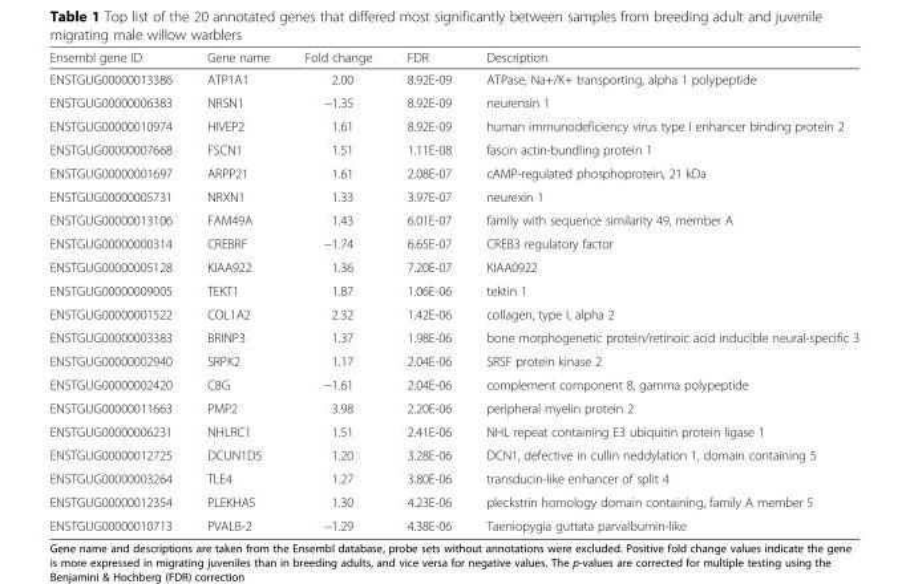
<table><thead><tr><td>Ensembl gene ID</td><td>Gene name</td><td>Fold change</td><td>FDR</td><td>Description</td></tr></thead><tbody><tr><td>ENSTGUG00000013386</td><td>ATP1A1</td><td>2.00</td><td>8.92E-09</td><td>ATPase, Na+/K+ transporting, alpha 1 polypeptide</td></tr><tr><td>ENSTGUG00000006383</td><td>NRSN1</td><td>−1.35</td><td>8.92E-09</td><td>neurensin 1</td></tr><tr><td>ENSTGUG00000010974</td><td>HIVEP2</td><td>1.61</td><td>8.92E-09</td><td>human immunodeficiency virus type I enhancer binding protein 2</td></tr><tr><td>ENSTGUG00000007668</td><td>FSCN1</td><td>1.51</td><td>1.11E-08</td><td>fascin actin-bundling protein 1</td></tr><tr><td>ENSTGUG00000001697</td><td>ARPP21</td><td>1.61</td><td>2.08E-07</td><td>cAMP-regulated phosphoprotein, 21 kDa</td></tr><tr><td>ENSTGUG00000005731</td><td>NRXN1</td><td>1.33</td><td>3.97E-07</td><td>neurexin 1</td></tr><tr><td>ENSTGUG00000013106</td><td>FAM49A</td><td>1.43</td><td>6.01E-07</td><td>family with sequence similarity 49, member A</td></tr><tr><td>ENSTGUG00000000314</td><td>CREBRF</td><td>−1.74</td><td>6.65E-07</td><td>CREB3 regulatory factor</td></tr><tr><td>ENSTGUG00000005128</td><td>KIAA922</td><td>1.36</td><td>7.20E-07</td><td>KIAA0922</td></tr><tr><td>ENSTGUG00000009005</td><td>TEKT1</td><td>1.87</td><td>1.06E-06</td><td>tektin 1</td></tr><tr><td>ENSTGUG00000001522</td><td>COL1A2</td><td>2.32</td><td>1.42E-06</td><td>collagen, type I, alpha 2</td></tr><tr><td>ENSTGUG00000003383</td><td>BRINP3</td><td>1.37</td><td>1.98E-06</td><td>bone morphogenetic protein/retinoic acid inducible neural-specific 3</td></tr><tr><td>ENSTGUG00000002940</td><td>SRPK2</td><td>1.17</td><td>2.04E-06</td><td>SRSF protein kinase 2</td></tr><tr><td>ENSTGUG00000002420</td><td>C8G</td><td>−1.61</td><td>2.04E-06</td><td>complement component 8, gamma polypeptide</td></tr><tr><td>ENSTGUG00000011663</td><td>PMP2</td><td>3.98</td><td>2.20E-06</td><td>peripheral myelin protein 2</td></tr><tr><td>ENSTGUG00000006231</td><td>NHLRC1</td><td>1.51</td><td>2.41E-06</td><td>NHL repeat containing E3 ubiquitin protein ligase 1</td></tr><tr><td>ENSTGUG00000012725</td><td>DCUN1D5</td><td>1.20</td><td>3.28E-06</td><td>DCN1, defective in cullin neddylation 1, domain containing 5</td></tr><tr><td>ENSTGUG00000003264</td><td>TLE4</td><td>1.27</td><td>3.80E-06</td><td>transducin-like enhancer of split 4</td></tr><tr><td>ENSTGUG00000012354</td><td>PLEKHA5</td><td>1.30</td><td>4.23E-06</td><td>pleckstrin homology domain containing, family A member 5</td></tr><tr><td>ENSTGUG00000010713</td><td>PVALB-2</td><td>−1.29</td><td>4.38E-06</td><td>Taeniopygia guttata parvalbumin-like</td></tr></tbody></table>